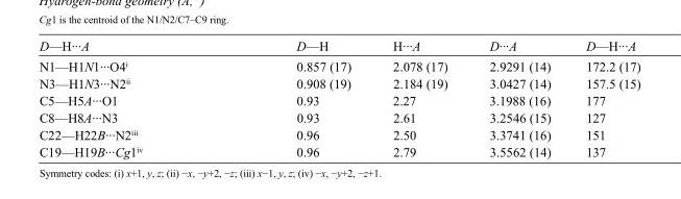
<table><tbody><tr><td>D—H···A</td><td>D—H</td><td>H···A</td><td>D···A</td><td>D—H···A</td></tr><tr><td>N1—H1N1···O4<sup>i</sup></td><td>0.857 (17)</td><td>2.078 (17)</td><td>2.9291 (14)</td><td>172.2 (17)</td></tr><tr><td>N3—H1N3···N2<sup>ii</sup></td><td>0.908 (19)</td><td>2.184 (19)</td><td>3.0427 (14)</td><td>157.5 (15)</td></tr><tr><td>C5—H5A···O1</td><td>0.93</td><td>2.27</td><td>3.1988 (16)</td><td>177</td></tr><tr><td>C8—H8A···N3</td><td>0.93</td><td>2.61</td><td>3.2546 (15)</td><td>127</td></tr><tr><td>C22—H22B···N2<sup>iii</sup></td><td>0.96</td><td>2.50</td><td>3.3741 (16)</td><td>151</td></tr><tr><td>C19—H19B···Cg1<sup>iv</sup></td><td>0.96</td><td>2.79</td><td>3.5562 (14)</td><td>137</td></tr></tbody></table>